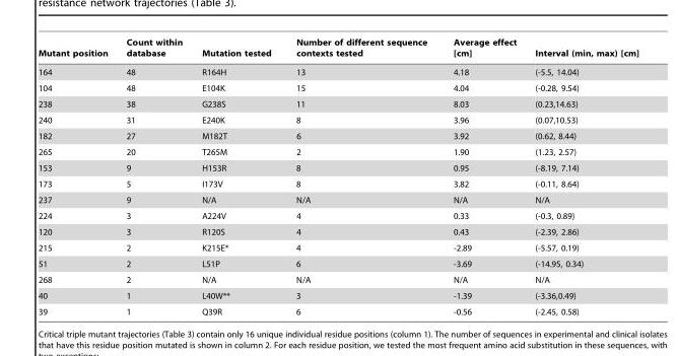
<table><thead><tr><td>Mutant position</td><td>Count within database</td><td>Mutation tested</td><td>Number of different sequence contexts tested</td><td>Average effect [cm]</td><td>Interval (min, max) [cm]</td></tr></thead><tbody><tr><td>164</td><td>48</td><td>R164H</td><td>13</td><td>4.18</td><td>(-5.5, 14.04)</td></tr><tr><td>104</td><td>48</td><td>E104K</td><td>15</td><td>4.04</td><td>(-0.28, 9.54)</td></tr><tr><td>238</td><td>38</td><td>G238S</td><td>11</td><td>8.03</td><td>(0.23,14.63)</td></tr><tr><td>240</td><td>31</td><td>E240K</td><td>8</td><td>3.96</td><td>(0.07,10.53)</td></tr><tr><td>182</td><td>27</td><td>M182T</td><td>6</td><td>3.92</td><td>(0.62, 8.44)</td></tr><tr><td>265</td><td>20</td><td>T265M</td><td>2</td><td>1.90</td><td>(1.23, 2.57)</td></tr><tr><td>153</td><td>9</td><td>H153R</td><td>8</td><td>0.95</td><td>(-8.19, 7.14)</td></tr><tr><td>173</td><td>5</td><td>I173V</td><td>8</td><td>3.82</td><td>(-0.11, 8.64)</td></tr><tr><td>237</td><td>9</td><td>N/A</td><td>N/A</td><td>N/A</td><td>N/A</td></tr><tr><td>224</td><td>3</td><td>A224V</td><td>4</td><td>0.33</td><td>(-0.3, 0.89)</td></tr><tr><td>120</td><td>3</td><td>R120S</td><td>4</td><td>0.43</td><td>(-2.39, 2.86)</td></tr><tr><td>215</td><td>2</td><td>K215E*</td><td>4</td><td>-2.89</td><td>(-5.57, 0.19)</td></tr><tr><td>51</td><td>2</td><td>L51P</td><td>6</td><td>-3.69</td><td>(-14.95, 0.34)</td></tr><tr><td>268</td><td>2</td><td>N/A</td><td>N/A</td><td>N/A</td><td>N/A</td></tr><tr><td>40</td><td>1</td><td>L40W**</td><td>3</td><td>-1.39</td><td>(-3.36,0.49)</td></tr><tr><td>39</td><td>1</td><td>Q39R</td><td>6</td><td>-0.56</td><td>(-2.45, 0.58)</td></tr></tbody></table>